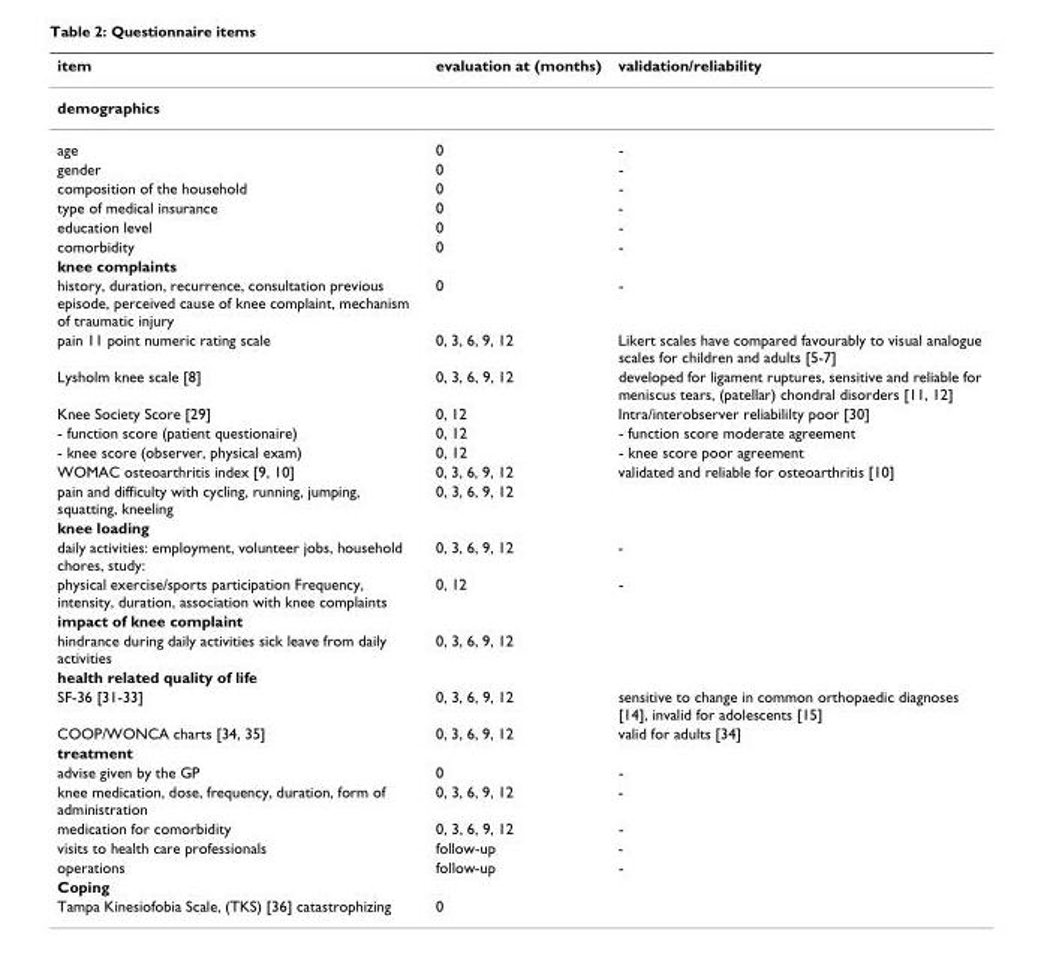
<table><thead><tr><td>item</td><td>evaluation at (months)</td><td>validation/reliability</td></tr></thead><tbody><tr><td colspan="3">demographics</td></tr><tr><td>age</td><td>0</td><td>-</td></tr><tr><td>gender</td><td>0</td><td>-</td></tr><tr><td>composition of the household</td><td>0</td><td>-</td></tr><tr><td>type of medical insurance</td><td>0</td><td>-</td></tr><tr><td>education level</td><td>0</td><td>-</td></tr><tr><td>comorbidity</td><td>0</td><td>-</td></tr><tr><td colspan="3">knee complaints</td></tr><tr><td>history, duration, recurrence, consultation previous episode, perceived cause of knee complaint, mechanism of traumatic injury</td><td>0</td><td>-</td></tr><tr><td>pain 11 point numeric rating scale</td><td>0, 3, 6, 9, 12</td><td>Likert scales have compared favourably to visual analogue scales for children and adults [5-7]</td></tr><tr><td>Lysholm knee scale [8]</td><td>0, 3, 6, 9, 12</td><td>developed for ligament ruptures, sensitive and reliable for meniscus tears, (patellar) chondral disorders [11, 12]</td></tr><tr><td>Knee Society Score [29]</td><td>0, 12</td><td>Intra/interobserver reliabililty poor [30]</td></tr><tr><td>- function score (patient questionaire)</td><td>0, 12</td><td>- function score moderate agreement</td></tr><tr><td>- knee score (observer, physical exam)</td><td>0, 12</td><td>- knee score poor agreement</td></tr><tr><td>WOMAC osteoarthritis index [9, 10]</td><td>0, 3, 6, 9, 12</td><td>validated and reliable for osteoarthritis [10]</td></tr><tr><td>pain and difficulty with cycling, running, jumping, squatting, kneeling</td><td>0, 3, 6, 9, 12</td><td></td></tr><tr><td colspan="3">knee loading</td></tr><tr><td>daily activities: employment, volunteer jobs, household chores, study:</td><td>0, 3, 6, 9, 12</td><td>-</td></tr><tr><td>physical exercise/sports participation Frequency, intensity, duration, association with knee complaints</td><td>0, 12</td><td>-</td></tr><tr><td colspan="3">impact of knee complaint</td></tr><tr><td>hindrance during daily activities sick leave from daily activities</td><td>0, 3, 6, 9, 12</td><td></td></tr><tr><td colspan="3">health related quality of life</td></tr><tr><td>SF-36 [31-33]</td><td>0, 3, 6, 9, 12</td><td>sensitive to change in common orthopaedic diagnoses [14], invalid for adolescents [15]</td></tr><tr><td>COOP/WONCA charts [34, 35]</td><td>0, 3, 6, 9, 12</td><td>valid for adults [34]</td></tr><tr><td colspan="3">treatment</td></tr><tr><td>advise given by the GP</td><td>0</td><td>-</td></tr><tr><td>knee medication, dose, frequency, duration, form of administration</td><td>0, 3, 6, 9, 12</td><td>-</td></tr><tr><td>medication for comorbidity</td><td>0, 3, 6, 9, 12</td><td>-</td></tr><tr><td>visits to health care professionals</td><td>follow-up</td><td>-</td></tr><tr><td>operations</td><td>follow-up</td><td>-</td></tr><tr><td colspan="3">Coping</td></tr><tr><td>Tampa Kinesiofobia Scale, (TKS) [36] catastrophizing</td><td>0</td><td></td></tr></tbody></table>